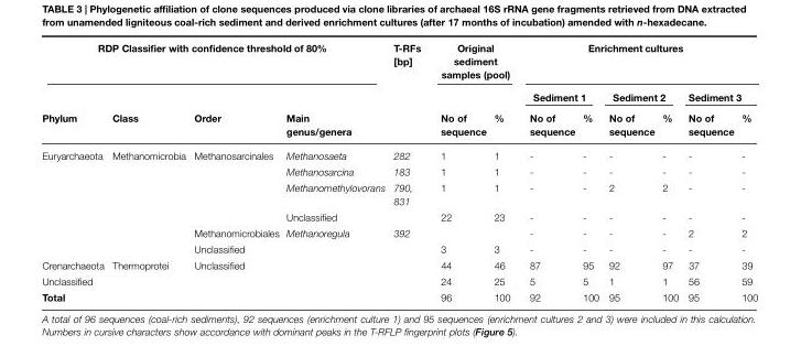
<table><thead><tr><td colspan="4">RDP Classifier with confidence threshold of 80%</td><td rowspan="3">T-RFs [bp]</td><td colspan="2">Original sediment samples (pool)</td><td colspan="6">Enrichment cultures</td></tr><tr><td rowspan="2">Phylum</td><td rowspan="2">Class</td><td rowspan="2">Order</td><td rowspan="2">Main genus/genera</td><td rowspan="2">No of sequence</td><td rowspan="2">%</td><td colspan="2">Sediment 1</td><td colspan="2">Sediment 2</td><td colspan="2">Sediment 3</td></tr><tr><td>No of sequence</td><td>%</td><td>No of sequence</td><td>%</td><td>No of sequence</td><td>%</td></tr></thead><tbody><tr><td rowspan="6">Euryarchaeota</td><td>Methanomicrobia</td><td>Methanosarcinales</td><td>Methanosaeta</td><td>282</td><td>1</td><td>1</td><td>-</td><td>-</td><td>-</td><td>-</td><td>-</td><td>-</td></tr><tr><td></td><td></td><td>Methanosarcina</td><td>183</td><td>1</td><td>1</td><td>-</td><td>-</td><td>-</td><td>-</td><td>-</td><td>-</td></tr><tr><td></td><td></td><td>Methanomethylovorans</td><td>790, 831</td><td>1</td><td>1</td><td>-</td><td>-</td><td>2</td><td>2</td><td>-</td><td>-</td></tr><tr><td></td><td></td><td>Unclassified</td><td></td><td>22</td><td>23</td><td>-</td><td>-</td><td>-</td><td>-</td><td>-</td><td>-</td></tr><tr><td></td><td>Methanomicrobiales</td><td>Methanoregula</td><td>392</td><td></td><td></td><td>-</td><td>-</td><td>-</td><td>-</td><td>2</td><td>2</td></tr><tr><td></td><td>Unclassified</td><td></td><td></td><td>3</td><td>3</td><td>-</td><td>-</td><td>-</td><td>-</td><td>-</td><td>-</td></tr><tr><td>Crenarchaeota</td><td>Thermoprotei</td><td>Unclassified</td><td></td><td></td><td>44</td><td>46</td><td>87</td><td>95</td><td>92</td><td>97</td><td>37</td><td>39</td></tr><tr><td>Unclassified</td><td></td><td></td><td></td><td></td><td>24</td><td>25</td><td>5</td><td>5</td><td>1</td><td>1</td><td>56</td><td>59</td></tr><tr><td>Total</td><td></td><td></td><td></td><td></td><td>96</td><td>100</td><td>92</td><td>100</td><td>95</td><td>100</td><td>95</td><td>100</td></tr></tbody></table>